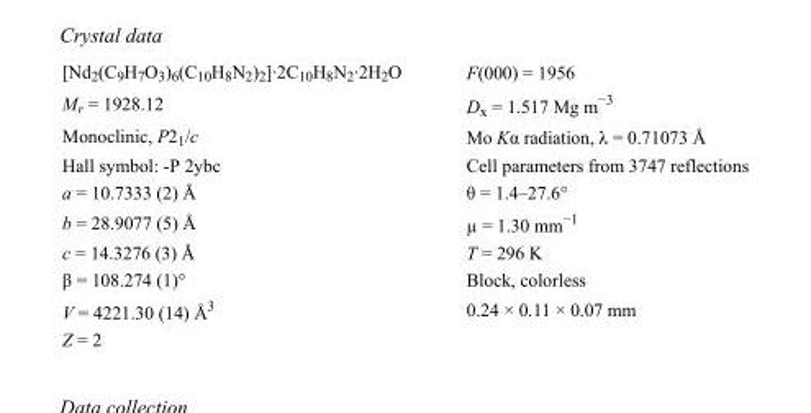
<table><tbody><tr><td>[Nd<sub>2</sub>(C<sub>9</sub>H<sub>7</sub>O<sub>3</sub>)<sub>6</sub>(C<sub>10</sub>H<sub>8</sub>N<sub>2</sub>)<sub>2</sub>]·2C<sub>10</sub>H<sub>8</sub>N<sub>2</sub>·2H<sub>2</sub>O</td><td>F(000) = 1956</td></tr><tr><td>M<sub>r</sub> = 1928.12</td><td>D<sub>x</sub> = 1.517 Mg m<sup>−3</sup></td></tr><tr><td>Monoclinic, P2<sub>1</sub>/c</td><td>Mo Kα radiation, λ = 0.71073 Å</td></tr><tr><td>Hall symbol: -P 2ybc</td><td>Cell parameters from 3747 reflections</td></tr><tr><td>a = 10.7333 (2) Å</td><td>θ = 1.4–27.6°</td></tr><tr><td>b = 28.9077 (5) Å</td><td>µ = 1.30 mm<sup>−1</sup></td></tr><tr><td>c = 14.3276 (3) Å</td><td>T = 296 K</td></tr><tr><td>β = 108.274 (1)°</td><td>Block, colorless</td></tr><tr><td>V = 4221.30 (14) Å<sup>3</sup></td><td>0.24 × 0.11 × 0.07 mm</td></tr><tr><td>Z = 2</td><td></td></tr></tbody></table>